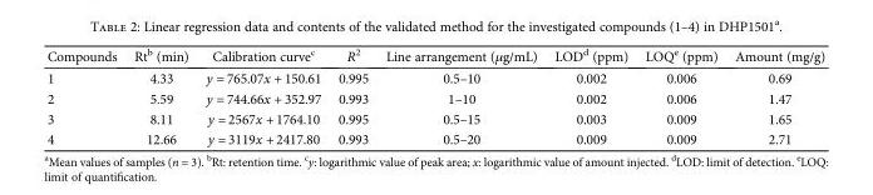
<table><thead><tr><td>Compounds</td><td>Rt<sup>b</sup> (min)</td><td>Calibration curve<sup>c</sup></td><td>R<sup>2</sup></td><td>Line arrangement (μg/mL)</td><td>LOD<sup>d</sup> (ppm)</td><td>LOQ<sup>e</sup> (ppm)</td><td>Amount (mg/g)</td></tr></thead><tbody><tr><td>1</td><td>4.33</td><td>y = 765.07x + 150.61</td><td>0.995</td><td>0.5–10</td><td>0.002</td><td>0.006</td><td>0.69</td></tr><tr><td>2</td><td>5.59</td><td>y = 744.66x + 352.97</td><td>0.993</td><td>1–10</td><td>0.002</td><td>0.006</td><td>1.47</td></tr><tr><td>3</td><td>8.11</td><td>y = 2567x + 1764.10</td><td>0.995</td><td>0.5–15</td><td>0.003</td><td>0.009</td><td>1.65</td></tr><tr><td>4</td><td>12.66</td><td>y = 3119x + 2417.80</td><td>0.993</td><td>0.5–20</td><td>0.009</td><td>0.009</td><td>2.71</td></tr></tbody></table>